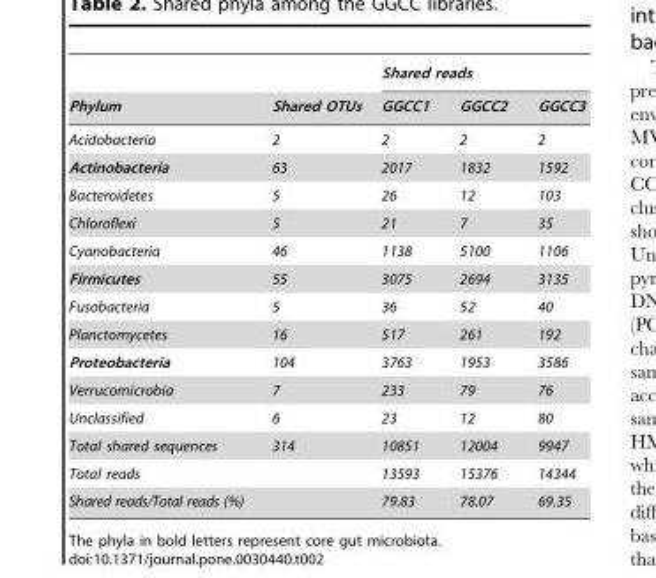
<table><thead><tr><td rowspan="2">Phylum</td><td rowspan="2">Shared OTUs</td><td colspan="3">Shared reads</td></tr><tr><td>GGCC1</td><td>GGCC2</td><td>GGCC3</td></tr></thead><tbody><tr><td>Acidobacteria</td><td>2</td><td>2</td><td>2</td><td>2</td></tr><tr><td>Actinobacteria</td><td>63</td><td>2017</td><td>1832</td><td>1592</td></tr><tr><td>Bacteroidetes</td><td>5</td><td>26</td><td>12</td><td>103</td></tr><tr><td>Chloroflexi</td><td>5</td><td>21</td><td>7</td><td>35</td></tr><tr><td>Cyanobacteria</td><td>46</td><td>1138</td><td>5100</td><td>1106</td></tr><tr><td>Firmicutes</td><td>55</td><td>3075</td><td>2694</td><td>3135</td></tr><tr><td>Fusobacteria</td><td>5</td><td>36</td><td>52</td><td>40</td></tr><tr><td>Planctomycetes</td><td>16</td><td>517</td><td>261</td><td>192</td></tr><tr><td>Proteobacteria</td><td>104</td><td>3763</td><td>1953</td><td>3586</td></tr><tr><td>Verrucomicrobia</td><td>7</td><td>233</td><td>79</td><td>76</td></tr><tr><td>Unclassified</td><td>6</td><td>23</td><td>12</td><td>80</td></tr><tr><td>Total shared sequences</td><td>314</td><td>10851</td><td>12004</td><td>9947</td></tr><tr><td>Total reads</td><td></td><td>13593</td><td>15376</td><td>14344</td></tr><tr><td>Shared reads/Total reads (%)</td><td></td><td>79.83</td><td>78.07</td><td>69.35</td></tr></tbody></table>